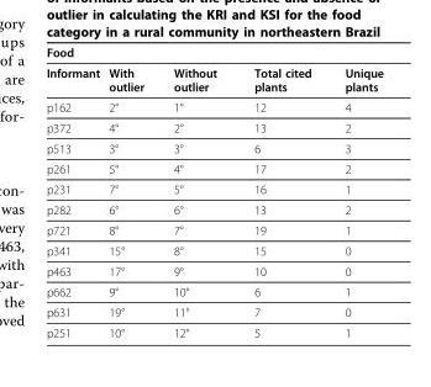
<table><thead><tr><td>Food</td><td></td><td></td><td></td><td></td></tr></thead><tbody><tr><td>Informant</td><td>With outlier</td><td>Without outlier</td><td>Total cited plants</td><td>Unique plants</td></tr><tr><td>p162</td><td>2°</td><td>1°</td><td>12</td><td>4</td></tr><tr><td>p372</td><td>4°</td><td>2°</td><td>13</td><td>2</td></tr><tr><td>p513</td><td>3°</td><td>3°</td><td>6</td><td>3</td></tr><tr><td>p261</td><td>5°</td><td>4°</td><td>17</td><td>2</td></tr><tr><td>p231</td><td>7°</td><td>5°</td><td>16</td><td>1</td></tr><tr><td>p282</td><td>6°</td><td>6°</td><td>13</td><td>2</td></tr><tr><td>p721</td><td>8°</td><td>7°</td><td>19</td><td>1</td></tr><tr><td>p341</td><td>15°</td><td>8°</td><td>15</td><td>0</td></tr><tr><td>p463</td><td>17°</td><td>9°</td><td>10</td><td>0</td></tr><tr><td>p662</td><td>9°</td><td>10°</td><td>6</td><td>1</td></tr><tr><td>p631</td><td>19°</td><td>11°</td><td>7</td><td>0</td></tr><tr><td>p251</td><td>10°</td><td>12°</td><td>5</td><td>1</td></tr></tbody></table>